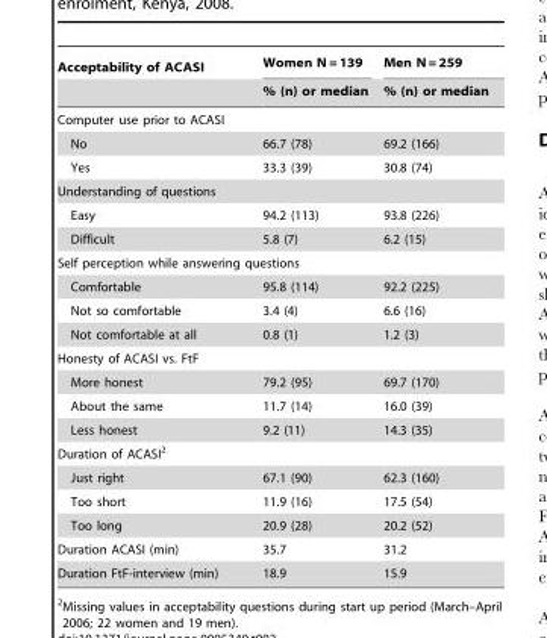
<table><thead><tr><td rowspan="2">Acceptability of ACASI</td><td rowspan="2">Women N = 139 % (n) or median</td><td rowspan="2">Men N = 259 % (n) or median</td></tr><tr></tr></thead><tbody><tr><td colspan="3">Computer use prior to ACASI</td></tr><tr><td>No</td><td>66.7 (78)</td><td>69.2 (166)</td></tr><tr><td>Yes</td><td>33.3 (39)</td><td>30.8 (74)</td></tr><tr><td colspan="3">Understanding of questions</td></tr><tr><td>Easy</td><td>94.2 (113)</td><td>93.8 (226)</td></tr><tr><td>Difficult</td><td>5.8 (7)</td><td>6.2 (15)</td></tr><tr><td colspan="3">Self perception while answering questions</td></tr><tr><td>Comfortable</td><td>95.8 (114)</td><td>92.2 (225)</td></tr><tr><td>Not so comfortable</td><td>3.4 (4)</td><td>6.6 (16)</td></tr><tr><td>Not comfortable at all</td><td>0.8 (1)</td><td>1.2 (3)</td></tr><tr><td colspan="3">Honesty of ACASI vs. FtF</td></tr><tr><td>More honest</td><td>79.2 (95)</td><td>69.7 (170)</td></tr><tr><td>About the same</td><td>11.7 (14)</td><td>16.0 (39)</td></tr><tr><td>Less honest</td><td>9.2 (11)</td><td>14.3 (35)</td></tr><tr><td colspan="3">Duration of ACASI<sup>2</sup></td></tr><tr><td>Just right</td><td>67.1 (90)</td><td>62.3 (160)</td></tr><tr><td>Too short</td><td>11.9 (16)</td><td>17.5 (54)</td></tr><tr><td>Too long</td><td>20.9 (28)</td><td>20.2 (52)</td></tr><tr><td>Duration ACASI (min)</td><td>35.7</td><td>31.2</td></tr><tr><td>Duration FtF-interview (min)</td><td>18.9</td><td>15.9</td></tr></tbody></table>